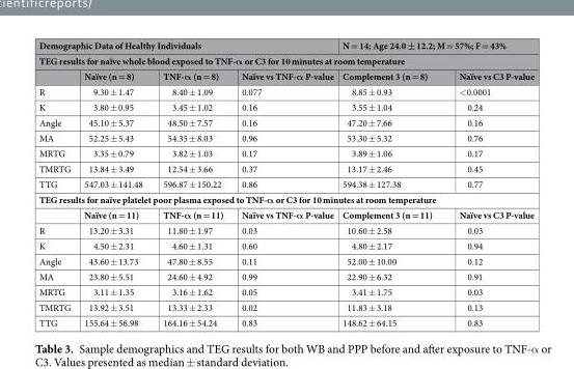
<table><thead><tr><td colspan="4">Demographic Data of Healthy Individuals</td><td colspan="2">N = 14; Age 24.0 ± 12.2; M = 57%; F = 43%</td></tr><tr><td colspan="6">TEG results for naïve whole blood exposed to TNF-α or C3 for 10 minutes at room temperature</td></tr><tr><td></td><td>Naïve (n = 8)</td><td>TNF-α (n = 8)</td><td>Naïve vs TNF-α P-value</td><td>Complement 3 (n = 8)</td><td>Naïve vs C3 P-value</td></tr></thead><tbody><tr><td>R</td><td>9.30 ± 1.47</td><td>8.40 ± 1.09</td><td>0.077</td><td>8.85 ± 0.93</td><td>&lt;0.0001</td></tr><tr><td>K</td><td>3.80 ± 0.95</td><td>3.45 ± 1.02</td><td>0.16</td><td>3.55 ± 1.04</td><td>0.24</td></tr><tr><td>Angle</td><td>45.10 ± 5.37</td><td>48.50 ± 7.57</td><td>0.16</td><td>47.20 ± 7.66</td><td>0.16</td></tr><tr><td>MA</td><td>52.25 ± 5.43</td><td>54.35 ± 8.03</td><td>0.96</td><td>53.30 ± 5.32</td><td>0.76</td></tr><tr><td>MRTG</td><td>3.35 ± 0.79</td><td>3.82 ± 1.03</td><td>0.17</td><td>3.89 ± 1.06</td><td>0.17</td></tr><tr><td>TMRTG</td><td>13.84 ± 3.49</td><td>12.54 ± 3.66</td><td>0.37</td><td>13.17 ± 2.46</td><td>0.45</td></tr><tr><td>TTG</td><td>547.03 ± 141.48</td><td>596.87 ± 150.22</td><td>0.86</td><td>594.38 ± 127.38</td><td>0.77</td></tr><tr><td colspan="6">TEG results for naïve platelet poor plasma exposed to TNF-α or C3 for 10 minutes at room temperature</td></tr><tr><td></td><td>Naïve (n = 11)</td><td>TNF-α (n = 11)</td><td>Naïve vs TNF-α P-value</td><td>Complement 3 (n = 11)</td><td>Naïve vs C3 P-value</td></tr><tr><td>R</td><td>13.20 ± 3.31</td><td>11.80 ± 1.97</td><td>0.03</td><td>10.60 ± 2.58</td><td>0.03</td></tr><tr><td>K</td><td>4.50 ± 2.31</td><td>4.60 ± 1.31</td><td>0.60</td><td>4.80 ± 2.17</td><td>0.94</td></tr><tr><td>Angle</td><td>43.60 ± 13.73</td><td>47.80 ± 8.55</td><td>0.11</td><td>52.00 ± 10.00</td><td>0.12</td></tr><tr><td>MA</td><td>23.80 ± 5.51</td><td>24.60 ± 4.92</td><td>0.99</td><td>22.90 ± 6.32</td><td>0.91</td></tr><tr><td>MRTG</td><td>3.11 ± 1.35</td><td>3.16 ± 1.62</td><td>0.05</td><td>3.41 ± 1.75</td><td>0.03</td></tr><tr><td>TMRTG</td><td>13.92 ± 3.51</td><td>13.33 ± 2.33</td><td>0.02</td><td>11.83 ± 3.18</td><td>0.13</td></tr><tr><td>TTG</td><td>155.64 ± 56.98</td><td>164.16 ± 54.24</td><td>0.83</td><td>148.62 ± 64.15</td><td>0.83</td></tr></tbody></table>